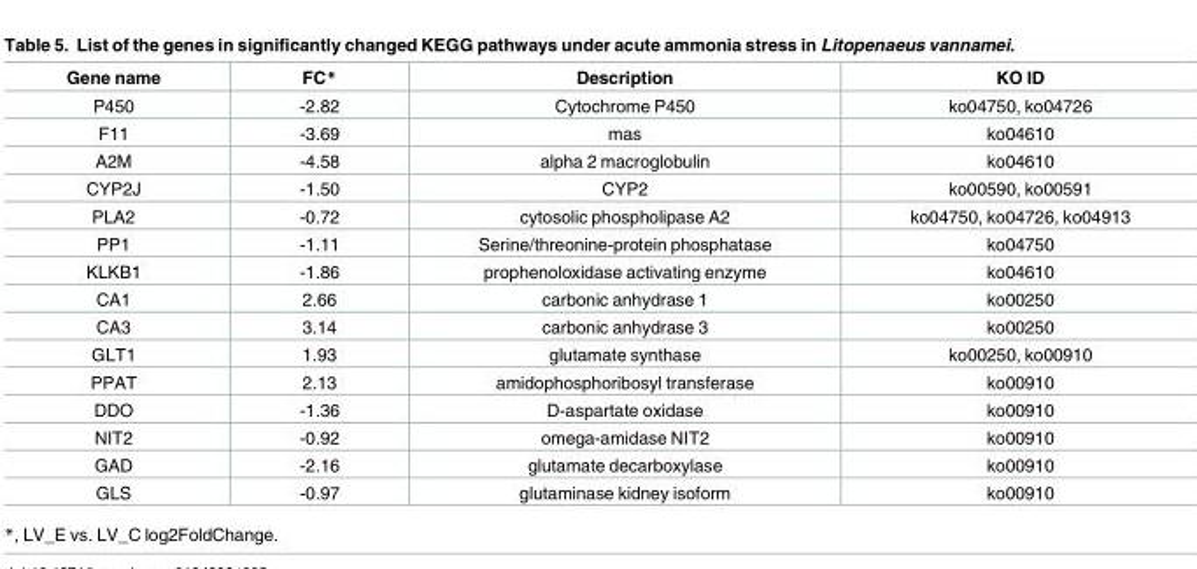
<table><thead><tr><td>Gene name</td><td>FC*</td><td>Description</td><td>KO ID</td></tr></thead><tbody><tr><td>P450</td><td>-2.82</td><td>Cytochrome P450</td><td>ko04750, ko04726</td></tr><tr><td>F11</td><td>-3.69</td><td>mas</td><td>ko04610</td></tr><tr><td>A2M</td><td>-4.58</td><td>alpha 2 macroglobulin</td><td>ko04610</td></tr><tr><td>CYP2J</td><td>-1.50</td><td>CYP2</td><td>ko00590, ko00591</td></tr><tr><td>PLA2</td><td>-0.72</td><td>cytosolic phospholipase A2</td><td>ko04750, ko04726, ko04913</td></tr><tr><td>PP1</td><td>-1.11</td><td>Serine/threonine-protein phosphatase</td><td>ko04750</td></tr><tr><td>KLKB1</td><td>-1.86</td><td>prophenoloxidase activating enzyme</td><td>ko04610</td></tr><tr><td>CA1</td><td>2.66</td><td>carbonic anhydrase 1</td><td>ko00250</td></tr><tr><td>CA3</td><td>3.14</td><td>carbonic anhydrase 3</td><td>ko00250</td></tr><tr><td>GLT1</td><td>1.93</td><td>glutamate synthase</td><td>ko00250, ko00910</td></tr><tr><td>PPAT</td><td>2.13</td><td>amidophosphoribosyl transferase</td><td>ko00910</td></tr><tr><td>DDO</td><td>-1.36</td><td>D-aspartate oxidase</td><td>ko00910</td></tr><tr><td>NIT2</td><td>-0.92</td><td>omega-amidase NIT2</td><td>ko00910</td></tr><tr><td>GAD</td><td>-2.16</td><td>glutamate decarboxylase</td><td>ko00910</td></tr><tr><td>GLS</td><td>-0.97</td><td>glutaminase kidney isoform</td><td>ko00910</td></tr></tbody></table>